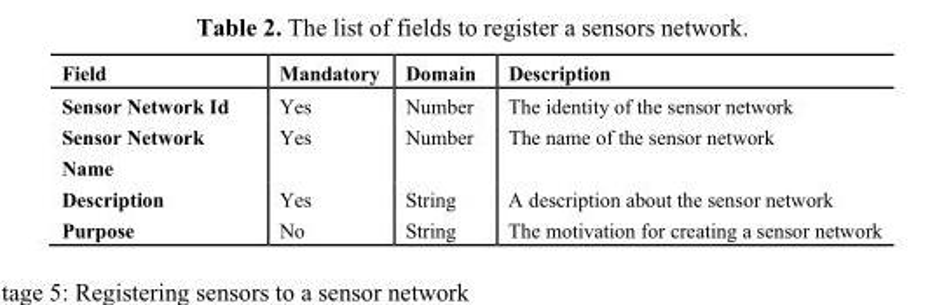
<table><thead><tr><td>Field</td><td>Mandatory</td><td>Domain</td><td>Description</td></tr></thead><tbody><tr><td>Sensor Network Id</td><td>Yes</td><td>Number</td><td>The identity of the sensor network</td></tr><tr><td>Sensor Network Name</td><td>Yes</td><td>Number</td><td>The name of the sensor network</td></tr><tr><td>Description</td><td>Yes</td><td>String</td><td>A description about the sensor network</td></tr><tr><td>Purpose</td><td>No</td><td>String</td><td>The motivation for creating a sensor network</td></tr></tbody></table>